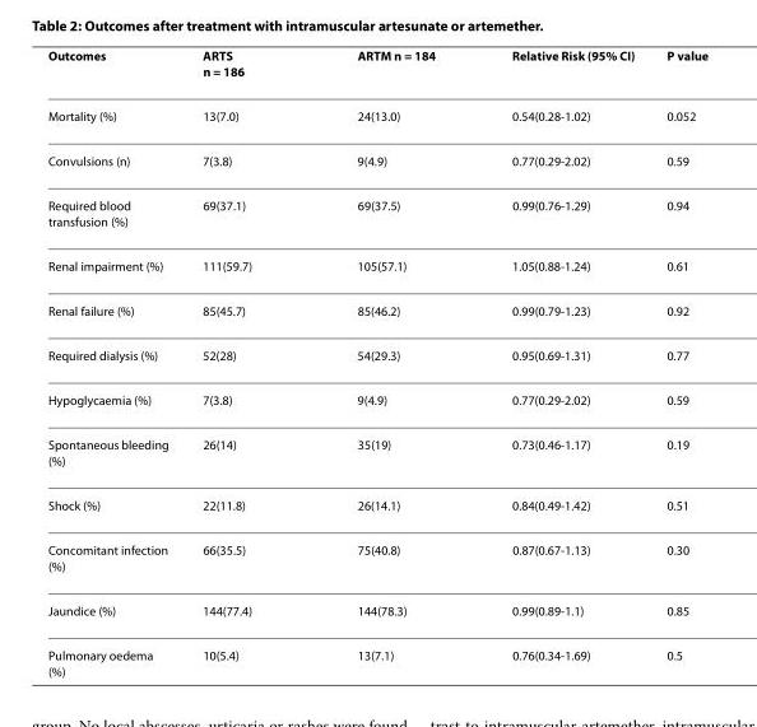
<table><thead><tr><td>Outcomes</td><td>ARTS n = 186</td><td>ARTM n = 184</td><td>Relative Risk (95% CI)</td><td>P value</td></tr></thead><tbody><tr><td>Mortality (%)</td><td>13(7.0)</td><td>24(13.0)</td><td>0.54(0.28-1.02)</td><td>0.052</td></tr><tr><td>Convulsions (n)</td><td>7(3.8)</td><td>9(4.9)</td><td>0.77(0.29-2.02)</td><td>0.59</td></tr><tr><td>Required blood transfusion (%)</td><td>69(37.1)</td><td>69(37.5)</td><td>0.99(0.76-1.29)</td><td>0.94</td></tr><tr><td>Renal impairment (%)</td><td>111(59.7)</td><td>105(57.1)</td><td>1.05(0.88-1.24)</td><td>0.61</td></tr><tr><td>Renal failure (%)</td><td>85(45.7)</td><td>85(46.2)</td><td>0.99(0.79-1.23)</td><td>0.92</td></tr><tr><td>Required dialysis (%)</td><td>52(28)</td><td>54(29.3)</td><td>0.95(0.69-1.31)</td><td>0.77</td></tr><tr><td>Hypoglycaemia (%)</td><td>7(3.8)</td><td>9(4.9)</td><td>0.77(0.29-2.02)</td><td>0.59</td></tr><tr><td>Spontaneous bleeding (%)</td><td>26(14)</td><td>35(19)</td><td>0.73(0.46-1.17)</td><td>0.19</td></tr><tr><td>Shock (%)</td><td>22(11.8)</td><td>26(14.1)</td><td>0.84(0.49-1.42)</td><td>0.51</td></tr><tr><td>Concomitant infection (%)</td><td>66(35.5)</td><td>75(40.8)</td><td>0.87(0.67-1.13)</td><td>0.30</td></tr><tr><td>Jaundice (%)</td><td>144(77.4)</td><td>144(78.3)</td><td>0.99(0.89-1.1)</td><td>0.85</td></tr><tr><td>Pulmonary oedema (%)</td><td>10(5.4)</td><td>13(7.1)</td><td>0.76(0.34-1.69)</td><td>0.5</td></tr></tbody></table>